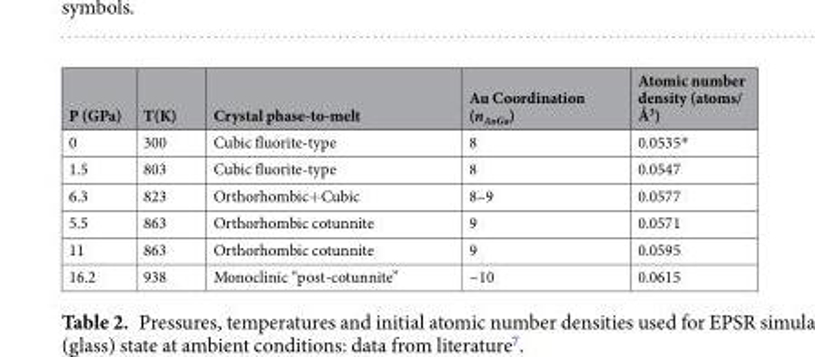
<table><thead><tr><td>P (GPa)</td><td>T(K)</td><td>Crystal phase-to-melt</td><td>Au Coordination (n<sub>AuGa</sub>)</td><td>Atomic number density (atoms/ Å<sup>3</sup>)</td></tr></thead><tbody><tr><td>0</td><td>300</td><td>Cubic fluorite-type</td><td>8</td><td>0.0535*</td></tr><tr><td>1.5</td><td>803</td><td>Cubic fluorite-type</td><td>8</td><td>0.0547</td></tr><tr><td>6.3</td><td>823</td><td>Orthorhombic+Cubic</td><td>8–9</td><td>0.0577</td></tr><tr><td>5.5</td><td>863</td><td>Orthorhombic cotunnite</td><td>9</td><td>0.0571</td></tr><tr><td>11</td><td>863</td><td>Orthorhombic cotunnite</td><td>9</td><td>0.0595</td></tr><tr><td>16.2</td><td>938</td><td>Monoclinic “post-cotunnite”</td><td>~10</td><td>0.0615</td></tr></tbody></table>